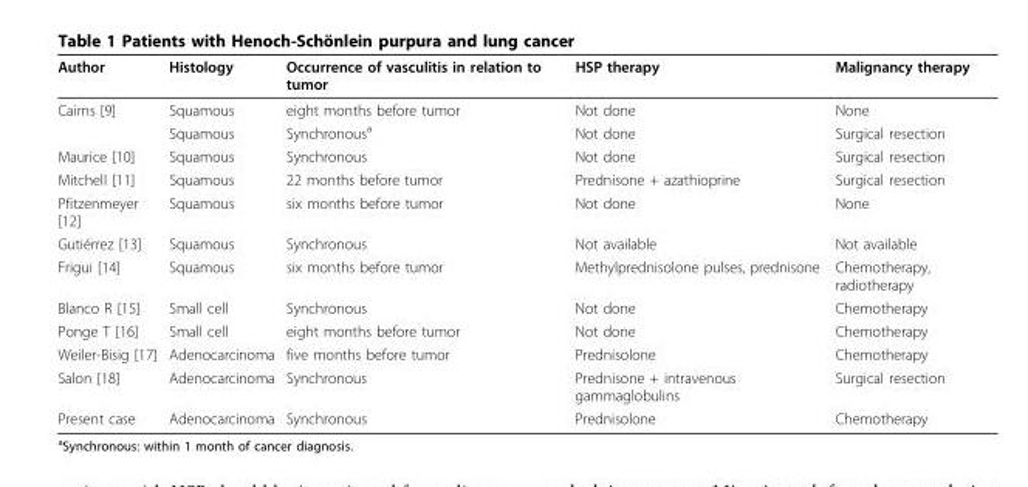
<table><thead><tr><td>Author</td><td>Histology</td><td>Occurrence of vasculitis in relation to tumor</td><td>HSP therapy</td><td>Malignancy therapy</td></tr></thead><tbody><tr><td rowspan="2">Cairns [9]</td><td>Squamous</td><td>eight months before tumor</td><td>Not done</td><td>None</td></tr><tr><td>Squamous</td><td>Synchronous<sup>a</sup></td><td>Not done</td><td>Surgical resection</td></tr><tr><td>Maurice [10]</td><td>Squamous</td><td>Synchronous</td><td>Not done</td><td>Surgical resection</td></tr><tr><td>Mitchell [11]</td><td>Squamous</td><td>22 months before tumor</td><td>Prednisone + azathioprine</td><td>Surgical resection</td></tr><tr><td>Pfitzenmeyer [12]</td><td>Squamous</td><td>six months before tumor</td><td>Not done</td><td>None</td></tr><tr><td>Gutiérrez [13]</td><td>Squamous</td><td>Synchronous</td><td>Not available</td><td>Not available</td></tr><tr><td>Frigui [14]</td><td>Squamous</td><td>six months before tumor</td><td>Methylprednisolone pulses, prednisone</td><td>Chemotherapy, radiotherapy</td></tr><tr><td>Blanco R [15]</td><td>Small cell</td><td>Synchronous</td><td>Not done</td><td>Chemotherapy</td></tr><tr><td>Ponge T [16]</td><td>Small cell</td><td>eight months before tumor</td><td>Not done</td><td>Chemotherapy</td></tr><tr><td>Weiler-Bisig [17]</td><td>Adenocarcinoma</td><td>five months before tumor</td><td>Prednisolone</td><td>Chemotherapy</td></tr><tr><td>Salon [18]</td><td>Adenocarcinoma</td><td>Synchronous</td><td>Prednisone + intravenous gammaglobulins</td><td>Surgical resection</td></tr><tr><td>Present case</td><td>Adenocarcinoma</td><td>Synchronous</td><td>Prednisolone</td><td>Chemotherapy</td></tr></tbody></table>